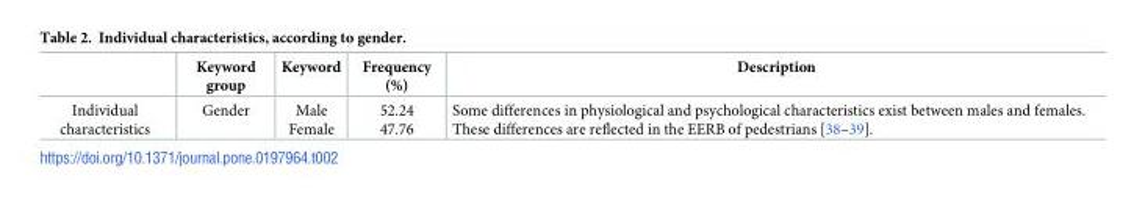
<table><thead><tr><td></td><td>Keyword group</td><td>Keyword</td><td>Frequency (%)</td><td>Description</td></tr></thead><tbody><tr><td>Individual characteristics</td><td>Gender</td><td>Male Female</td><td>52.24 47.76</td><td>Some differences in physiological and psychological characteristics exist between males and females. These differences are reflected in the EERB of pedestrians [38–39].</td></tr></tbody></table>